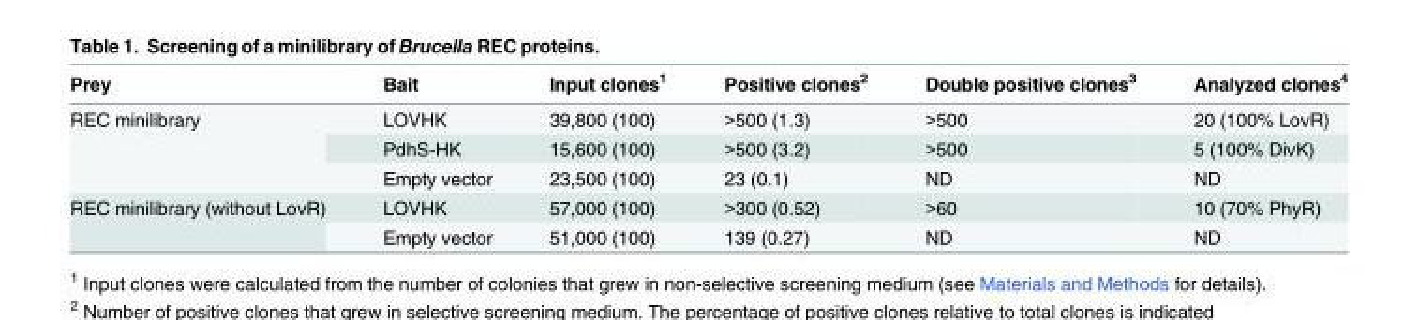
<table><thead><tr><td>Prey</td><td>Bait</td><td>Input clones<sup>1</sup></td><td>Positive clones<sup>2</sup></td><td>Double positive clones<sup>3</sup></td><td>Analyzed clones<sup>4</sup></td></tr></thead><tbody><tr><td rowspan="3">REC minilibrary</td><td>LOVHK</td><td>39,800 (100)</td><td>&gt;500 (1.3)</td><td>&gt;500</td><td>20 (100% LovR)</td></tr><tr><td>PdhS-HK</td><td>15,600 (100)</td><td>&gt;500 (3.2)</td><td>&gt;500</td><td>5 (100% DivK)</td></tr><tr><td>Empty vector</td><td>23,500 (100)</td><td>23 (0.1)</td><td>ND</td><td>ND</td></tr><tr><td rowspan="2">REC minilibrary (without LovR)</td><td>LOVHK</td><td>57,000 (100)</td><td>&gt;300 (0.52)</td><td>&gt;60</td><td>10 (70% PhyR)</td></tr><tr><td>Empty vector</td><td>51,000 (100)</td><td>139 (0.27)</td><td>ND</td><td>ND</td></tr></tbody></table>